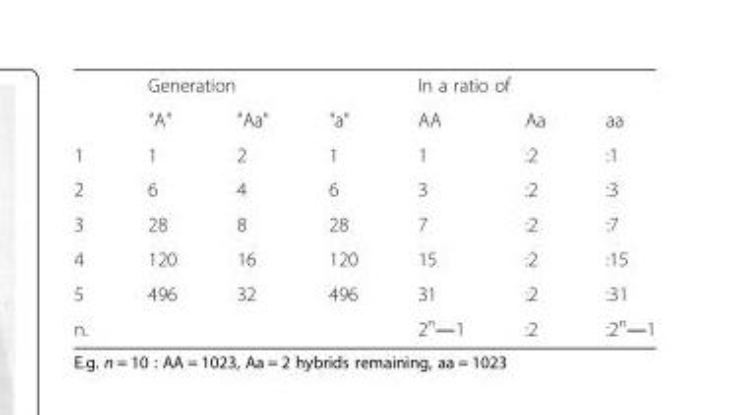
<table><thead><tr><td rowspan="2"></td><td colspan="3">Generation</td><td colspan="3">In a ratio of</td></tr><tr><td>&quot;A&quot;</td><td>&quot;Aa&quot;</td><td>&quot;a&quot;</td><td>AA</td><td>Aa</td><td>aa</td></tr></thead><tbody><tr><td>1</td><td>1</td><td>2</td><td>1</td><td>1</td><td>:2</td><td>:1</td></tr><tr><td>2</td><td>6</td><td>4</td><td>6</td><td>3</td><td>:2</td><td>:3</td></tr><tr><td>3</td><td>28</td><td>8</td><td>28</td><td>7</td><td>:2</td><td>:7</td></tr><tr><td>4</td><td>120</td><td>16</td><td>120</td><td>15</td><td>:2</td><td>:15</td></tr><tr><td>5</td><td>496</td><td>32</td><td>496</td><td>31</td><td>:2</td><td>:31</td></tr><tr><td>n.</td><td></td><td></td><td></td><td>2<sup>n</sup>―1</td><td>:2</td><td>:2<sup>n</sup>―1</td></tr></tbody></table>